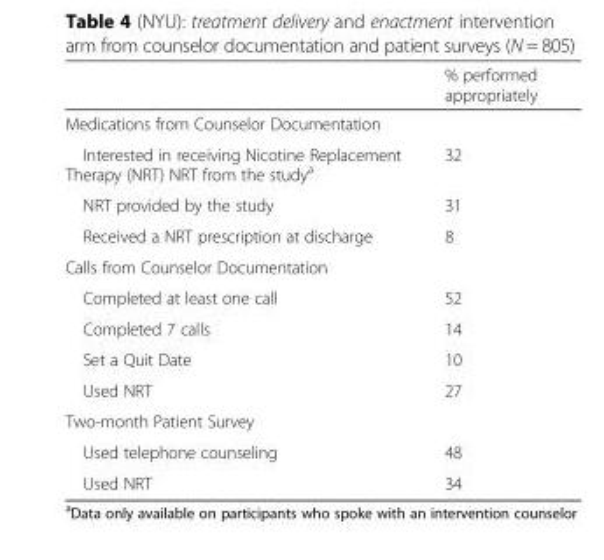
<table><thead><tr><td></td><td>% performed appropriately</td></tr></thead><tbody><tr><td colspan="2">Medications from Counselor Documentation</td></tr><tr><td>Interested in receiving Nicotine Replacement Therapy (NRT) NRT from the study<sup>a</sup></td><td>32</td></tr><tr><td>NRT provided by the study</td><td>31</td></tr><tr><td>Received a NRT prescription at discharge</td><td>8</td></tr><tr><td colspan="2">Calls from Counselor Documentation</td></tr><tr><td>Completed at least one call</td><td>52</td></tr><tr><td>Completed 7 calls</td><td>14</td></tr><tr><td>Set a Quit Date</td><td>10</td></tr><tr><td>Used NRT</td><td>27</td></tr><tr><td colspan="2">Two-month Patient Survey</td></tr><tr><td>Used telephone counseling</td><td>48</td></tr><tr><td>Used NRT</td><td>34</td></tr></tbody></table>